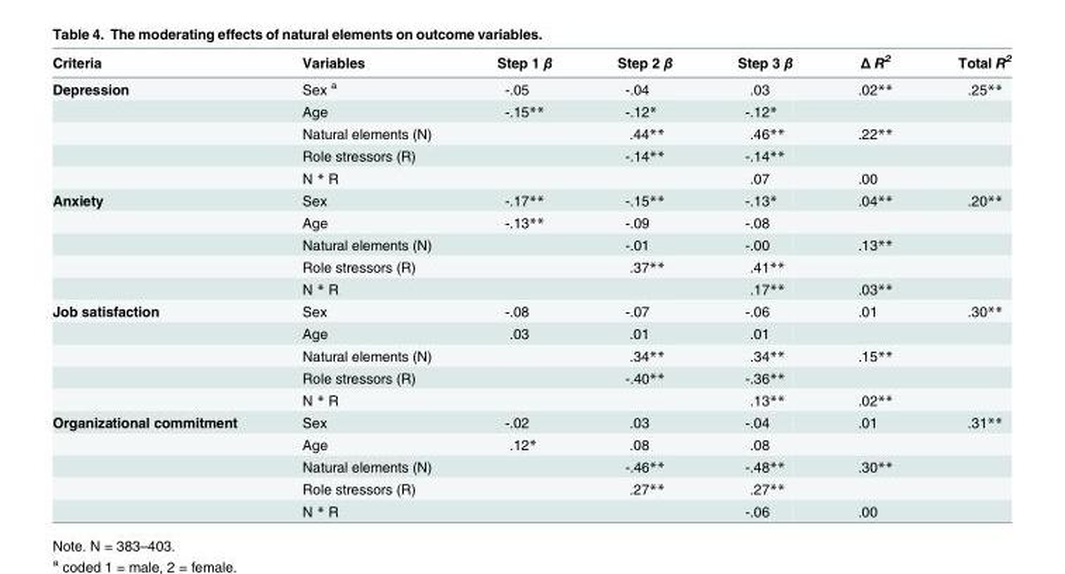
<table><thead><tr><td>Criteria</td><td>Variables</td><td>Step 1 β</td><td>Step 2 β</td><td>Step 3 β</td><td>Δ R<sup>2</sup></td><td>Total R<sup>2</sup></td></tr></thead><tbody><tr><td rowspan="5">Depression</td><td>Sex <sup>a</sup></td><td>-.05</td><td>-.04</td><td>.03</td><td>.02**</td><td>.25**</td></tr><tr><td>Age</td><td>-.15**</td><td>-.12*</td><td>-.12*</td><td></td><td></td></tr><tr><td>Natural elements (N)</td><td></td><td>.44**</td><td>.46**</td><td>.22**</td><td></td></tr><tr><td>Role stressors (R)</td><td></td><td>-.14**</td><td>-.14**</td><td></td><td></td></tr><tr><td>N * R</td><td></td><td></td><td>.07</td><td>.00</td><td></td></tr><tr><td rowspan="5">Anxiety</td><td>Sex</td><td>-.17**</td><td>-.15**</td><td>-.13*</td><td>.04**</td><td>.20**</td></tr><tr><td>Age</td><td>-.13**</td><td>-.09</td><td>-.08</td><td></td><td></td></tr><tr><td>Natural elements (N)</td><td></td><td>-.01</td><td>-.00</td><td>.13**</td><td></td></tr><tr><td>Role stressors (R)</td><td></td><td>.37**</td><td>.41**</td><td></td><td></td></tr><tr><td>N * R</td><td></td><td></td><td>.17**</td><td>.03**</td><td></td></tr><tr><td rowspan="5">Job satisfaction</td><td>Sex</td><td>-.08</td><td>-.07</td><td>-.06</td><td>.01</td><td>.30**</td></tr><tr><td>Age</td><td>.03</td><td>.01</td><td>.01</td><td></td><td></td></tr><tr><td>Natural elements (N)</td><td></td><td>.34**</td><td>.34**</td><td>.15**</td><td></td></tr><tr><td>Role stressors (R)</td><td></td><td>-.40**</td><td>-.36**</td><td></td><td></td></tr><tr><td>N * R</td><td></td><td></td><td>.13**</td><td>.02**</td><td></td></tr><tr><td rowspan="5">Organizational commitment</td><td>Sex</td><td>-.02</td><td>.03</td><td>-.04</td><td>.01</td><td>.31**</td></tr><tr><td>Age</td><td>.12*</td><td>.08</td><td>.08</td><td></td><td></td></tr><tr><td>Natural elements (N)</td><td></td><td>-.46**</td><td>-.48**</td><td>.30**</td><td></td></tr><tr><td>Role stressors (R)</td><td></td><td>.27**</td><td>.27**</td><td></td><td></td></tr><tr><td>N * R</td><td></td><td></td><td>-.06</td><td>.00</td><td></td></tr></tbody></table>